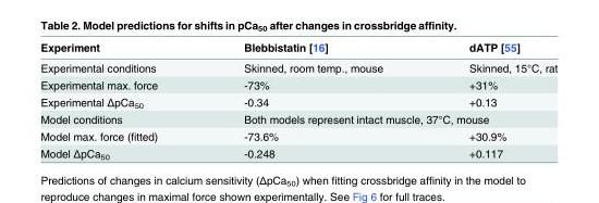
<table><thead><tr><td>Experiment</td><td>Blebbistatin [16]</td><td>dATP [55]</td></tr></thead><tbody><tr><td>Experimental conditions</td><td>Skinned, room temp., mouse</td><td>Skinned, 15°C, rat</td></tr><tr><td>Experimental max. force</td><td>-73%</td><td>+31%</td></tr><tr><td>Experimental ΔpCa<sub>50</sub></td><td>-0.34</td><td>+0.13</td></tr><tr><td>Model conditions</td><td colspan="2">Both models represent intact muscle, 37°C, mouse</td></tr><tr><td>Model max. force (fitted)</td><td>-73.6%</td><td>+30.9%</td></tr><tr><td>Model ΔpCa<sub>50</sub></td><td>-0.248</td><td>+0.117</td></tr></tbody></table>